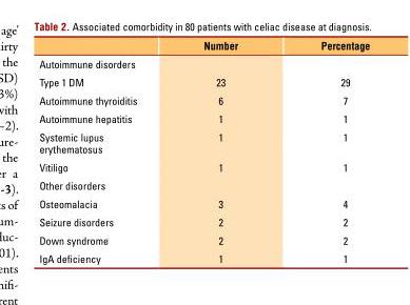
<table><thead><tr><td></td><td>Number</td><td>Percentage</td></tr></thead><tbody><tr><td colspan="3">Autoimmune disorders</td></tr><tr><td>Type 1 DM</td><td>23</td><td>29</td></tr><tr><td>Autoimmune thyroiditis</td><td>6</td><td>7</td></tr><tr><td>Autoimmune hepatitis</td><td>1</td><td>1</td></tr><tr><td>Systemic lupus erythematosus</td><td>1</td><td>1</td></tr><tr><td>Vitiligo</td><td>1</td><td>1</td></tr><tr><td colspan="3">Other disorders</td></tr><tr><td>Osteomalacia</td><td>3</td><td>4</td></tr><tr><td>Seizure disorders</td><td>2</td><td>2</td></tr><tr><td>Down syndrome</td><td>2</td><td>2</td></tr><tr><td>IgA deficiency</td><td>1</td><td>1</td></tr></tbody></table>